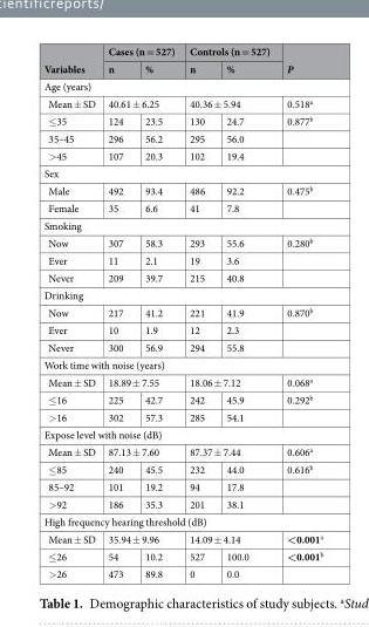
<table><thead><tr><td rowspan="2">Variables</td><td colspan="2">Cases (n = 527)</td><td colspan="2">Controls (n = 527)</td><td rowspan="2">P</td></tr><tr><td>n</td><td>%</td><td>n</td><td>%</td></tr></thead><tbody><tr><td colspan="6">Age (years)</td></tr><tr><td>Mean ± SD</td><td colspan="2">40.61 ± 6.25</td><td colspan="2">40.36 ± 5.94</td><td>0.518<sup>a</sup></td></tr><tr><td>≤35</td><td>124</td><td>23.5</td><td>130</td><td>24.7</td><td>0.877<sup>b</sup></td></tr><tr><td>35–45</td><td>296</td><td>56.2</td><td>295</td><td>56.0</td><td></td></tr><tr><td>&gt;45</td><td>107</td><td>20.3</td><td>102</td><td>19.4</td><td></td></tr><tr><td colspan="6">Sex</td></tr><tr><td>Male</td><td>492</td><td>93.4</td><td>486</td><td>92.2</td><td>0.475<sup>b</sup></td></tr><tr><td>Female</td><td>35</td><td>6.6</td><td>41</td><td>7.8</td><td></td></tr><tr><td colspan="6">Smoking</td></tr><tr><td>Now</td><td>307</td><td>58.3</td><td>293</td><td>55.6</td><td>0.280<sup>b</sup></td></tr><tr><td>Ever</td><td>11</td><td>2.1</td><td>19</td><td>3.6</td><td></td></tr><tr><td>Never</td><td>209</td><td>39.7</td><td>215</td><td>40.8</td><td></td></tr><tr><td colspan="6">Drinking</td></tr><tr><td>Now</td><td>217</td><td>41.2</td><td>221</td><td>41.9</td><td>0.870<sup>b</sup></td></tr><tr><td>Ever</td><td>10</td><td>1.9</td><td>12</td><td>2.3</td><td></td></tr><tr><td>Never</td><td>300</td><td>56.9</td><td>294</td><td>55.8</td><td></td></tr><tr><td colspan="6">Work time with noise (years)</td></tr><tr><td>Mean ± SD</td><td colspan="2">18.89 ± 7.55</td><td colspan="2">18.06 ± 7.12</td><td>0.068<sup>a</sup></td></tr><tr><td>≤16</td><td>225</td><td>42.7</td><td>242</td><td>45.9</td><td>0.292<sup>b</sup></td></tr><tr><td>&gt;16</td><td>302</td><td>57.3</td><td>285</td><td>54.1</td><td></td></tr><tr><td colspan="6">Expose level with noise (dB)</td></tr><tr><td>Mean ± SD</td><td colspan="2">87.13 ± 7.60</td><td colspan="2">87.37 ± 7.44</td><td>0.606<sup>a</sup></td></tr><tr><td>≤85</td><td>240</td><td>45.5</td><td>232</td><td>44.0</td><td>0.616<sup>b</sup></td></tr><tr><td>85–92</td><td>101</td><td>19.2</td><td>94</td><td>17.8</td><td></td></tr><tr><td>&gt;92</td><td>186</td><td>35.3</td><td>201</td><td>38.1</td><td></td></tr><tr><td colspan="6">High frequency hearing threshold (dB)</td></tr><tr><td>Mean ± SD</td><td colspan="2">35.94 ± 9.96</td><td colspan="2">14.09 ± 4.14</td><td>&lt;0.001<sup>a</sup></td></tr><tr><td>≤26</td><td>54</td><td>10.2</td><td>527</td><td>100.0</td><td>&lt;0.001<sup>b</sup></td></tr><tr><td>&gt;26</td><td>473</td><td>89.8</td><td>0</td><td>0.0</td><td></td></tr></tbody></table>